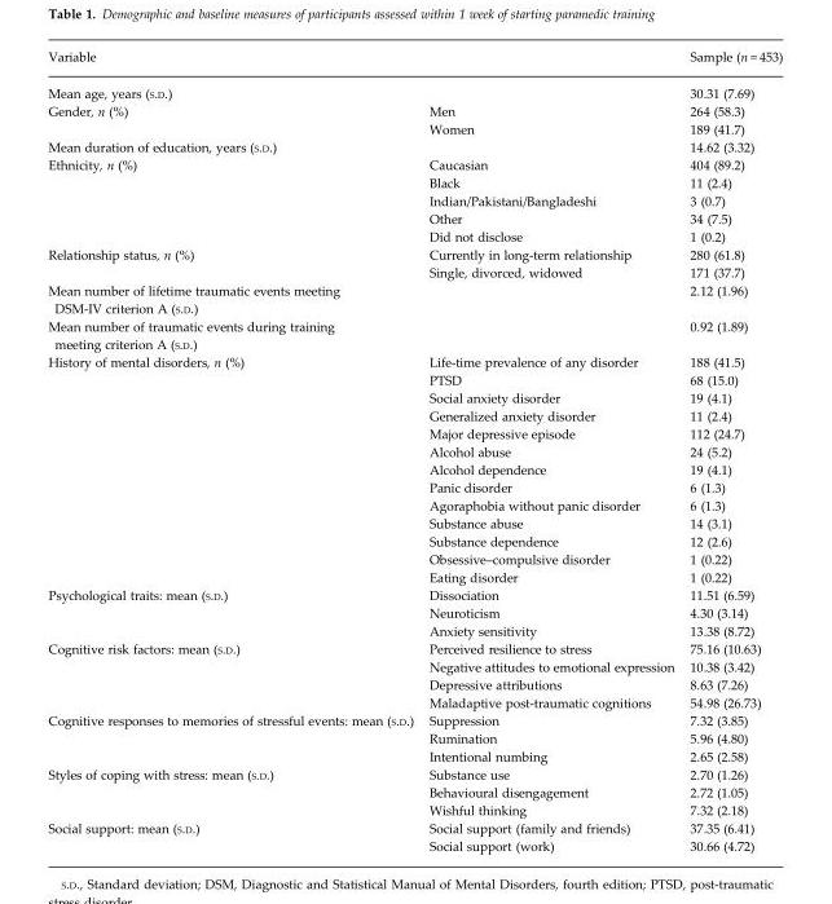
<table><thead><tr><td>Variable</td><td></td><td>Sample (n = 453)</td></tr></thead><tbody><tr><td>Mean age, years (S.D.)</td><td></td><td>30.31 (7.69)</td></tr><tr><td rowspan="2">Gender, n (%)</td><td>Men</td><td>264 (58.3)</td></tr><tr><td>Women</td><td>189 (41.7)</td></tr><tr><td>Mean duration of education, years (S.D.)</td><td></td><td>14.62 (3.32)</td></tr><tr><td rowspan="5">Ethnicity, n (%)</td><td>Caucasian</td><td>404 (89.2)</td></tr><tr><td>Black</td><td>11 (2.4)</td></tr><tr><td>Indian/Pakistani/Bangladeshi</td><td>3 (0.7)</td></tr><tr><td>Other</td><td>34 (7.5)</td></tr><tr><td>Did not disclose</td><td>1 (0.2)</td></tr><tr><td rowspan="2">Relationship status, n (%)</td><td>Currently in long-term relationship</td><td>280 (61.8)</td></tr><tr><td>Single, divorced, widowed</td><td>171 (37.7)</td></tr><tr><td colspan="2">Mean number of lifetime traumatic events meeting DSM-IV criterion A (S.D.)</td><td>2.12 (1.96)</td></tr><tr><td colspan="2">Mean number of traumatic events during training meeting criterion A (S.D.)</td><td>0.92 (1.89)</td></tr><tr><td rowspan="13">History of mental disorders, n (%)</td><td>Life-time prevalence of any disorder</td><td>188 (41.5)</td></tr><tr><td>PTSD</td><td>68 (15.0)</td></tr><tr><td>Social anxiety disorder</td><td>19 (4.1)</td></tr><tr><td>Generalized anxiety disorder</td><td>11 (2.4)</td></tr><tr><td>Major depressive episode</td><td>112 (24.7)</td></tr><tr><td>Alcohol abuse</td><td>24 (5.2)</td></tr><tr><td>Alcohol dependence</td><td>19 (4.1)</td></tr><tr><td>Panic disorder</td><td>6 (1.3)</td></tr><tr><td>Agoraphobia without panic disorder</td><td>6 (1.3)</td></tr><tr><td>Substance abuse</td><td>14 (3.1)</td></tr><tr><td>Substance dependence</td><td>12 (2.6)</td></tr><tr><td>Obsessive–compulsive disorder</td><td>1 (0.22)</td></tr><tr><td>Eating disorder</td><td>1 (0.22)</td></tr><tr><td rowspan="3">Psychological traits: mean (S.D.)</td><td>Dissociation</td><td>11.51 (6.59)</td></tr><tr><td>Neuroticism</td><td>4.30 (3.14)</td></tr><tr><td>Anxiety sensitivity</td><td>13.38 (8.72)</td></tr><tr><td rowspan="4">Cognitive risk factors: mean (S.D.)</td><td>Perceived resilience to stress</td><td>75.16 (10.63)</td></tr><tr><td>Negative attitudes to emotional expression</td><td>10.38 (3.42)</td></tr><tr><td>Depressive attributions</td><td>8.63 (7.26)</td></tr><tr><td>Maladaptive post-traumatic cognitions</td><td>54.98 (26.73)</td></tr><tr><td rowspan="3">Cognitive responses to memories of stressful events: mean (S.D.)</td><td>Suppression</td><td>7.32 (3.85)</td></tr><tr><td>Rumination</td><td>5.96 (4.80)</td></tr><tr><td>Intentional numbing</td><td>2.65 (2.58)</td></tr><tr><td rowspan="3">Styles of coping with stress: mean (S.D.)</td><td>Substance use</td><td>2.70 (1.26)</td></tr><tr><td>Behavioural disengagement</td><td>2.72 (1.05)</td></tr><tr><td>Wishful thinking</td><td>7.32 (2.18)</td></tr><tr><td rowspan="2">Social support: mean (S.D.)</td><td>Social support (family and friends)</td><td>37.35 (6.41)</td></tr><tr><td>Social support (work)</td><td>30.66 (4.72)</td></tr></tbody></table>